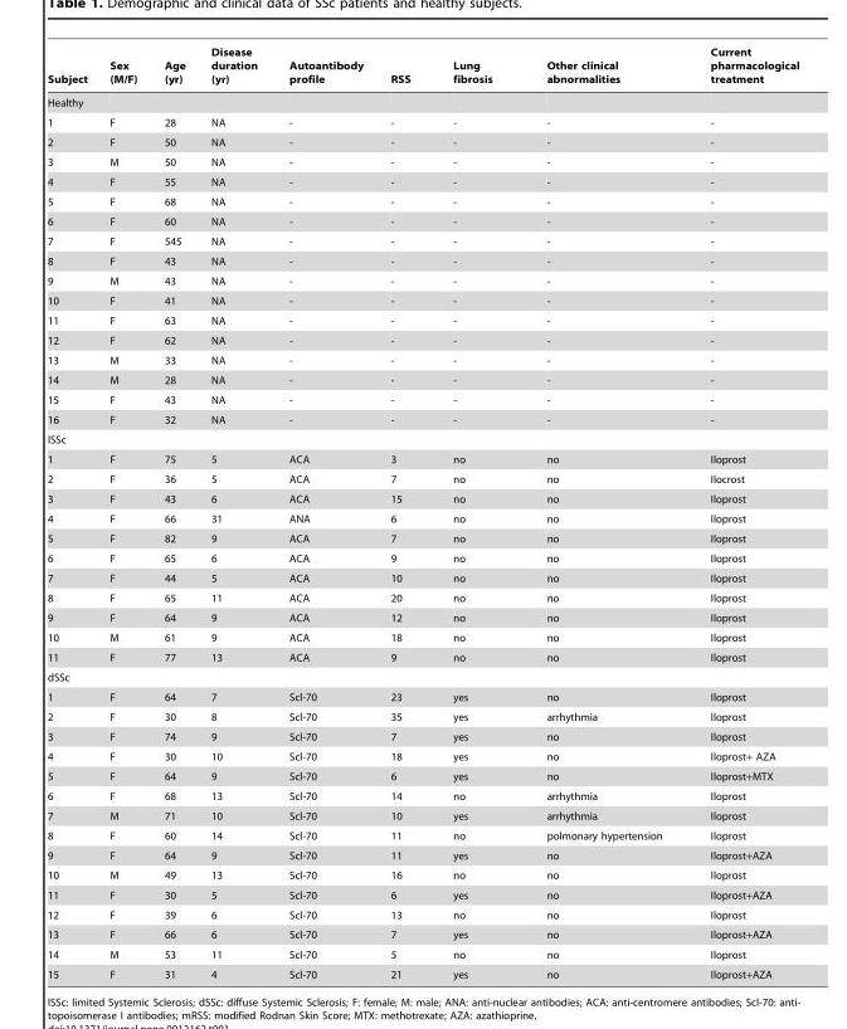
<table><thead><tr><td>Subject</td><td>Sex (M/F)</td><td>Age (yr)</td><td>Disease duration (yr)</td><td>Autoantibody profile</td><td>RSS</td><td>Lung fibrosis</td><td>Other clinical abnormalities</td><td>Current pharmacological treatment</td></tr></thead><tbody><tr><td colspan="9">Healthy</td></tr><tr><td>1</td><td>F</td><td>28</td><td>NA</td><td>-</td><td>-</td><td>-</td><td>-</td><td>-</td></tr><tr><td>2</td><td>F</td><td>50</td><td>NA</td><td>-</td><td>-</td><td>-</td><td>-</td><td>-</td></tr><tr><td>3</td><td>M</td><td>50</td><td>NA</td><td>-</td><td>-</td><td>-</td><td>-</td><td>-</td></tr><tr><td>4</td><td>F</td><td>55</td><td>NA</td><td>-</td><td>-</td><td>-</td><td>-</td><td>-</td></tr><tr><td>5</td><td>F</td><td>68</td><td>NA</td><td>-</td><td>-</td><td>-</td><td>-</td><td>-</td></tr><tr><td>6</td><td>F</td><td>60</td><td>NA</td><td>-</td><td>-</td><td>-</td><td>-</td><td>-</td></tr><tr><td>7</td><td>F</td><td>545</td><td>NA</td><td>-</td><td>-</td><td>-</td><td>-</td><td>-</td></tr><tr><td>8</td><td>F</td><td>43</td><td>NA</td><td>-</td><td>-</td><td>-</td><td>-</td><td>-</td></tr><tr><td>9</td><td>M</td><td>43</td><td>NA</td><td>-</td><td>-</td><td>-</td><td>-</td><td>-</td></tr><tr><td>10</td><td>F</td><td>41</td><td>NA</td><td>-</td><td>-</td><td>-</td><td>-</td><td>-</td></tr><tr><td>11</td><td>F</td><td>63</td><td>NA</td><td>-</td><td>-</td><td>-</td><td>-</td><td>-</td></tr><tr><td>12</td><td>F</td><td>62</td><td>NA</td><td>-</td><td>-</td><td>-</td><td>-</td><td>-</td></tr><tr><td>13</td><td>M</td><td>33</td><td>NA</td><td>-</td><td>-</td><td>-</td><td>-</td><td>-</td></tr><tr><td>14</td><td>M</td><td>28</td><td>NA</td><td>-</td><td>-</td><td>-</td><td>-</td><td>-</td></tr><tr><td>15</td><td>F</td><td>43</td><td>NA</td><td>-</td><td>-</td><td>-</td><td>-</td><td>-</td></tr><tr><td>16</td><td>F</td><td>32</td><td>NA</td><td>-</td><td>-</td><td>-</td><td>-</td><td>-</td></tr><tr><td colspan="9">lSSc</td></tr><tr><td>1</td><td>F</td><td>75</td><td>5</td><td>ACA</td><td>3</td><td>no</td><td>no</td><td>Iloprost</td></tr><tr><td>2</td><td>F</td><td>36</td><td>5</td><td>ACA</td><td>7</td><td>no</td><td>no</td><td>Ilocrost</td></tr><tr><td>3</td><td>F</td><td>43</td><td>6</td><td>ACA</td><td>15</td><td>no</td><td>no</td><td>Iloprost</td></tr><tr><td>4</td><td>F</td><td>66</td><td>31</td><td>ANA</td><td>6</td><td>no</td><td>no</td><td>Iloprost</td></tr><tr><td>5</td><td>F</td><td>82</td><td>9</td><td>ACA</td><td>7</td><td>no</td><td>no</td><td>Iloprost</td></tr><tr><td>6</td><td>F</td><td>65</td><td>6</td><td>ACA</td><td>9</td><td>no</td><td>no</td><td>Iloprost</td></tr><tr><td>7</td><td>F</td><td>44</td><td>5</td><td>ACA</td><td>10</td><td>no</td><td>no</td><td>Iloprost</td></tr><tr><td>8</td><td>F</td><td>65</td><td>11</td><td>ACA</td><td>20</td><td>no</td><td>no</td><td>Iloprost</td></tr><tr><td>9</td><td>F</td><td>64</td><td>9</td><td>ACA</td><td>12</td><td>no</td><td>no</td><td>Iloprost</td></tr><tr><td>10</td><td>M</td><td>61</td><td>9</td><td>ACA</td><td>18</td><td>no</td><td>no</td><td>Iloprost</td></tr><tr><td>11</td><td>F</td><td>77</td><td>13</td><td>ACA</td><td>9</td><td>no</td><td>no</td><td>Iloprost</td></tr><tr><td colspan="9">dSSc</td></tr><tr><td>1</td><td>F</td><td>64</td><td>7</td><td>Scl-70</td><td>23</td><td>yes</td><td>no</td><td>Iloprost</td></tr><tr><td>2</td><td>F</td><td>30</td><td>8</td><td>Scl-70</td><td>35</td><td>yes</td><td>arrhythmia</td><td>Iloprost</td></tr><tr><td>3</td><td>F</td><td>74</td><td>9</td><td>Scl-70</td><td>7</td><td>yes</td><td>no</td><td>Iloprost</td></tr><tr><td>4</td><td>F</td><td>30</td><td>10</td><td>Scl-70</td><td>18</td><td>yes</td><td>no</td><td>Iloprost+ AZA</td></tr><tr><td>5</td><td>F</td><td>64</td><td>9</td><td>Scl-70</td><td>6</td><td>yes</td><td>no</td><td>Iloprost+MTX</td></tr><tr><td>6</td><td>F</td><td>68</td><td>13</td><td>Scl-70</td><td>14</td><td>no</td><td>arrhythmia</td><td>Iloprost</td></tr><tr><td>7</td><td>M</td><td>71</td><td>10</td><td>Scl-70</td><td>10</td><td>yes</td><td>arrhythmia</td><td>Iloprost</td></tr><tr><td>8</td><td>F</td><td>60</td><td>14</td><td>Scl-70</td><td>11</td><td>no</td><td>polmonary hypertension</td><td>Iloprost</td></tr><tr><td>9</td><td>F</td><td>64</td><td>9</td><td>Scl-70</td><td>11</td><td>yes</td><td>no</td><td>Iloprost+AZA</td></tr><tr><td>10</td><td>M</td><td>49</td><td>13</td><td>Scl-70</td><td>16</td><td>no</td><td>no</td><td>Iloprost</td></tr><tr><td>11</td><td>F</td><td>30</td><td>5</td><td>Scl-70</td><td>6</td><td>yes</td><td>no</td><td>Iloprost+AZA</td></tr><tr><td>12</td><td>F</td><td>39</td><td>6</td><td>Scl-70</td><td>13</td><td>no</td><td>no</td><td>Iloprost</td></tr><tr><td>13</td><td>F</td><td>66</td><td>6</td><td>Scl-70</td><td>7</td><td>yes</td><td>no</td><td>Iloprost+AZA</td></tr><tr><td>14</td><td>M</td><td>53</td><td>11</td><td>Scl-70</td><td>5</td><td>no</td><td>no</td><td>Iloprost</td></tr><tr><td>15</td><td>F</td><td>31</td><td>4</td><td>Scl-70</td><td>21</td><td>yes</td><td>no</td><td>Iloprost+AZA</td></tr></tbody></table>